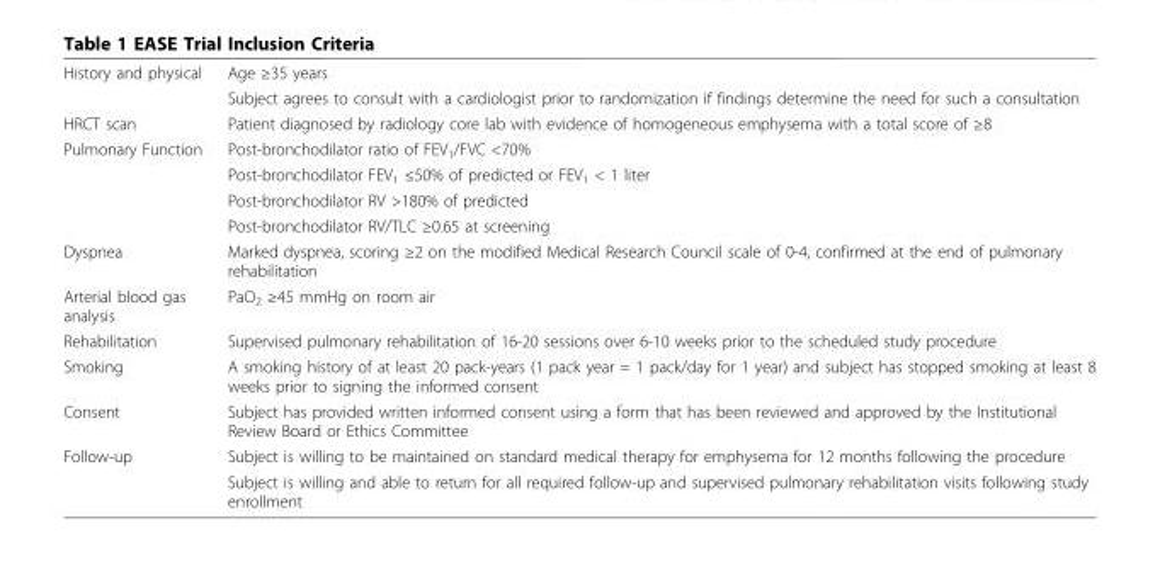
<table><tbody><tr><td rowspan="2">History and physical</td><td>Age ≥35 years</td></tr><tr><td>Subject agrees to consult with a cardiologist prior to randomization if findings determine the need for such a consultation</td></tr><tr><td>HRCT scan</td><td>Patient diagnosed by radiology core lab with evidence of homogeneous emphysema with a total score of ≥8</td></tr><tr><td rowspan="4">Pulmonary Function</td><td>Post-bronchodilator ratio of FEV<sub>1</sub>/FVC &lt;70%</td></tr><tr><td>Post-bronchodilator FEV<sub>1</sub> ≤50% of predicted or FEV<sub>1</sub> &lt; 1 liter</td></tr><tr><td>Post-bronchodilator RV &gt;180% of predicted</td></tr><tr><td>Post-bronchodilator RV/TLC ≥0.65 at screening</td></tr><tr><td>Dyspnea</td><td>Marked dyspnea, scoring ≥2 on the modified Medical Research Council scale of 0-4, confirmed at the end of pulmonary rehabilitation</td></tr><tr><td>Arterial blood gas analysis</td><td>PaO<sub>2</sub> ≥45 mmHg on room air</td></tr><tr><td>Rehabilitation</td><td>Supervised pulmonary rehabilitation of 16-20 sessions over 6-10 weeks prior to the scheduled study procedure</td></tr><tr><td>Smoking</td><td>A smoking history of at least 20 pack-years (1 pack year = 1 pack/day for 1 year) and subject has stopped smoking at least 8 weeks prior to signing the informed consent</td></tr><tr><td>Consent</td><td>Subject has provided written informed consent using a form that has been reviewed and approved by the Institutional Review Board or Ethics Committee</td></tr><tr><td rowspan="2">Follow-up</td><td>Subject is willing to be maintained on standard medical therapy for emphysema for 12 months following the procedure</td></tr><tr><td>Subject is willing and able to return for all required follow-up and supervised pulmonary rehabilitation visits following study enrollment</td></tr></tbody></table>